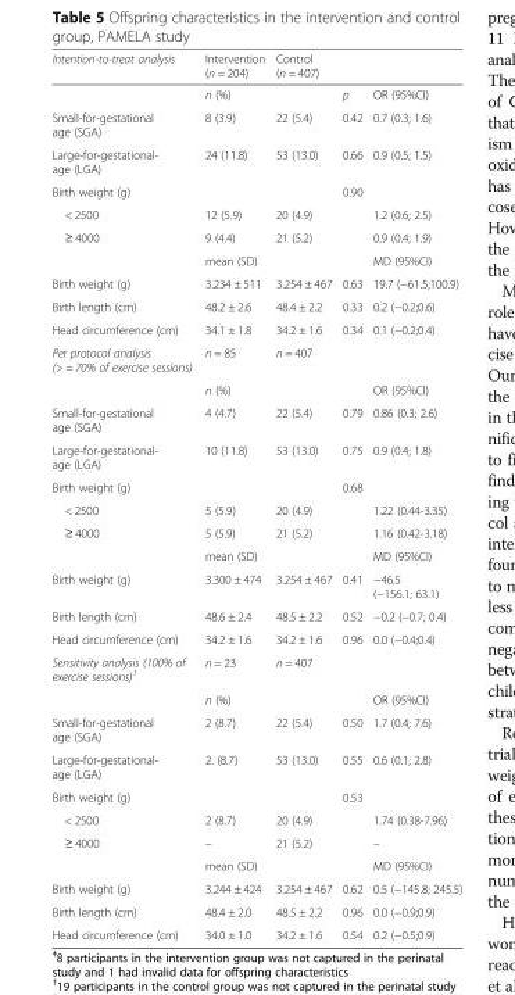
<table><thead><tr><td>Intention-to-treat analysis</td><td>Intervention (n = 204)</td><td>Control (n = 407)</td><td></td><td></td></tr></thead><tbody><tr><td></td><td colspan="2">n (%)</td><td>p</td><td>OR (95%CI)</td></tr><tr><td>Small-for-gestational age (SGA)</td><td>8 (3.9)</td><td>22 (5.4)</td><td>0.42</td><td>0.7 (0.3; 1.6)</td></tr><tr><td>Large-for-gestational- age (LGA)</td><td>24 (11.8)</td><td>53 (13.0)</td><td>0.66</td><td>0.9 (0.5; 1.5)</td></tr><tr><td>Birth weight (g)</td><td></td><td></td><td>0.90</td><td></td></tr><tr><td>&lt; 2500</td><td>12 (5.9)</td><td>20 (4.9)</td><td></td><td>1.2 (0.6; 2.5)</td></tr><tr><td rowspan="2">≥ 4000</td><td>9 (4.4)</td><td>21 (5.2)</td><td></td><td>0.9 (0.4; 1.9)</td></tr><tr><td colspan="2">mean (SD)</td><td></td><td>MD (95%CI)</td></tr><tr><td>Birth weight (g)</td><td>3.234 ± 511</td><td>3.254 ± 467</td><td>0.63</td><td>19.7 (−61.5;100.9)</td></tr><tr><td>Birth length (cm)</td><td>48.2 ± 2.6</td><td>48.4 ± 2.2</td><td>0.33</td><td>0.2 (−0.2;0.6)</td></tr><tr><td>Head circumference (cm)</td><td>34.1 ± 1.8</td><td>34.2 ± 1.6</td><td>0.34</td><td>0.1 (−0.2;0.4)</td></tr><tr><td rowspan="2">Per protocol analysis (&gt; = 70% of exercise sessions)</td><td>n = 85</td><td>n = 407</td><td></td><td></td></tr><tr><td colspan="2">n (%)</td><td></td><td>OR (95%CI)</td></tr><tr><td>Small-for-gestational age (SGA)</td><td>4 (4.7)</td><td>22 (5.4)</td><td>0.79</td><td>0.86 (0.3; 2.6)</td></tr><tr><td>Large-for-gestational- age (LGA)</td><td>10 (11.8)</td><td>53 (13.0)</td><td>0.75</td><td>0.9 (0.4; 1.8)</td></tr><tr><td>Birth weight (g)</td><td></td><td></td><td>0.68</td><td></td></tr><tr><td>&lt; 2500</td><td>5 (5.9)</td><td>20 (4.9)</td><td></td><td>1.22 (0.44-3.35)</td></tr><tr><td rowspan="2">≥ 4000</td><td>5 (5.9)</td><td>21 (5.2)</td><td></td><td>1.16 (0.42-3.18)</td></tr><tr><td colspan="2">mean (SD)</td><td></td><td>MD (95%CI)</td></tr><tr><td>Birth weight (g)</td><td>3.300 ± 474</td><td>3.254 ± 467</td><td>0.41</td><td>−46.5 (−156.1; 63.1)</td></tr><tr><td>Birth length (cm)</td><td>48.6 ± 2.4</td><td>48.5 ± 2.2</td><td>0.52</td><td>−0.2 (−0.7; 0.4)</td></tr><tr><td>Head circumference (cm)</td><td>34.2 ± 1.6</td><td>34.2 ± 1.6</td><td>0.96</td><td>0.0 (−0.4;0.4)</td></tr><tr><td rowspan="2">Sensitivity analysis (100% of exercise sessions)<sup>1</sup></td><td>n = 23</td><td>n = 407</td><td></td><td></td></tr><tr><td colspan="2">n (%)</td><td></td><td>OR (95%CI)</td></tr><tr><td>Small-for-gestational age (SGA)</td><td>2 (8.7)</td><td>22 (5.4)</td><td>0.50</td><td>1.7 (0.4; 7.6)</td></tr><tr><td>Large-for-gestational- age (LGA)</td><td>2. (8.7)</td><td>53 (13.0)</td><td>0.55</td><td>0.6 (0.1; 2.8)</td></tr><tr><td>Birth weight (g)</td><td></td><td></td><td>0.53</td><td></td></tr><tr><td>&lt; 2500</td><td>2 (8.7)</td><td>20 (4.9)</td><td></td><td>1.74 (0.38-7.96)</td></tr><tr><td rowspan="2">≥ 4000</td><td>–</td><td>21 (5.2)</td><td></td><td>–</td></tr><tr><td colspan="2">mean (SD)</td><td></td><td>MD (95%CI)</td></tr><tr><td>Birth weight (g)</td><td>3.244 ± 424</td><td>3.254 ± 467</td><td>0.62</td><td>0.5 (−145.8; 245.5)</td></tr><tr><td>Birth length (cm)</td><td>48.4 ± 2.0</td><td>48.5 ± 2.2</td><td>0.96</td><td>0.0 (−0.9;0.9)</td></tr><tr><td>Head circumference (cm)</td><td>34.0 ± 1.0</td><td>34.2 ± 1.6</td><td>0.54</td><td>0.2 (−0.5;0.9)</td></tr></tbody></table>